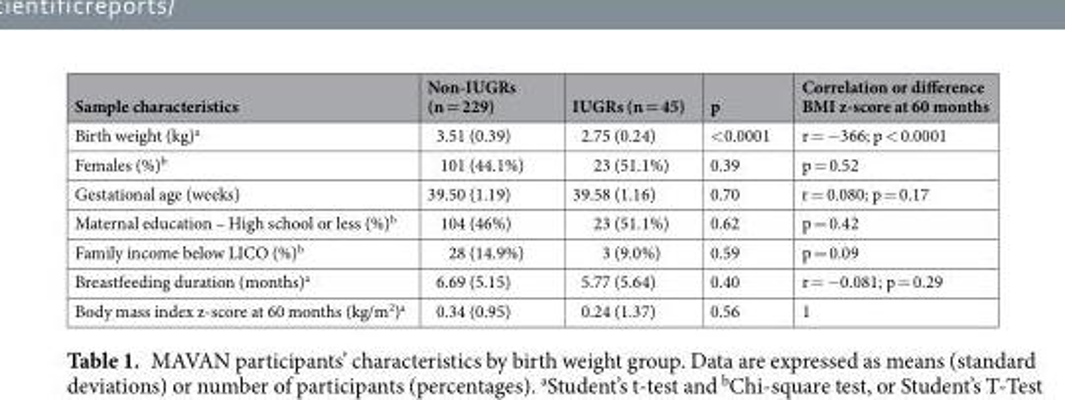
<table><thead><tr><td>Sample characteristics</td><td>Non-IUGRs (n = 229)</td><td>IUGRs (n = 45)</td><td>p</td><td>Correlation or difference BMI z-score at 60 months</td></tr></thead><tbody><tr><td>Birth weight (kg)<sup>a</sup></td><td>3.51 (0.39)</td><td>2.75 (0.24)</td><td>&lt;0.0001</td><td>r = −366; p &lt; 0.0001</td></tr><tr><td>Females (%)<sup>b</sup></td><td>101 (44.1%)</td><td>23 (51.1%)</td><td>0.39</td><td>p = 0.52</td></tr><tr><td>Gestational age (weeks)</td><td>39.50 (1.19)</td><td>39.58 (1.16)</td><td>0.70</td><td>r = 0.080; p = 0.17</td></tr><tr><td>Maternal education – High school or less (%)<sup>b</sup></td><td>104 (46%)</td><td>23 (51.1%)</td><td>0.62</td><td>p = 0.42</td></tr><tr><td>Family income below LICO (%)<sup>b</sup></td><td>28 (14.9%)</td><td>3 (9.0%)</td><td>0.59</td><td>p = 0.09</td></tr><tr><td>Breastfeeding duration (months)<sup>a</sup></td><td>6.69 (5.15)</td><td>5.77 (5.64)</td><td>0.40</td><td>r = −0.081; p = 0.29</td></tr><tr><td>Body mass index z-score at 60 months (kg/m<sup>2</sup>)<sup>a</sup></td><td>0.34 (0.95)</td><td>0.24 (1.37)</td><td>0.56</td><td>1</td></tr></tbody></table>